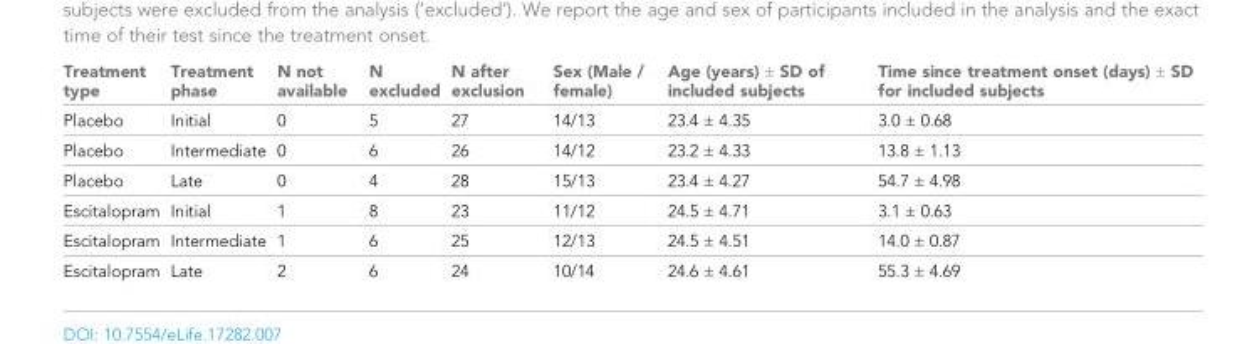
<table><thead><tr><td>Treatment type</td><td>Treatment phase</td><td>N not available</td><td>N excluded</td><td>N after exclusion</td><td>Sex (Male / female)</td><td>Age (years) ± SD of included subjects</td><td>Time since treatment onset (days) ± SD for included subjects</td></tr></thead><tbody><tr><td>Placebo</td><td>Initial</td><td>0</td><td>5</td><td>27</td><td>14/13</td><td>23.4 ± 4.35</td><td>3.0 ± 0.68</td></tr><tr><td>Placebo</td><td>Intermediate</td><td>0</td><td>6</td><td>26</td><td>14/12</td><td>23.2 ± 4.33</td><td>13.8 ± 1.13</td></tr><tr><td>Placebo</td><td>Late</td><td>0</td><td>4</td><td>28</td><td>15/13</td><td>23.4 ± 4.27</td><td>54.7 ± 4.98</td></tr><tr><td>Escitalopram</td><td>Initial</td><td>1</td><td>8</td><td>23</td><td>11/12</td><td>24.5 ± 4.71</td><td>3.1 ± 0.63</td></tr><tr><td>Escitalopram</td><td>Intermediate</td><td>1</td><td>6</td><td>25</td><td>12/13</td><td>24.5 ± 4.51</td><td>14.0 ± 0.87</td></tr><tr><td>Escitalopram</td><td>Late</td><td>2</td><td>6</td><td>24</td><td>10/14</td><td>24.6 ± 4.61</td><td>55.3 ± 4.69</td></tr></tbody></table>